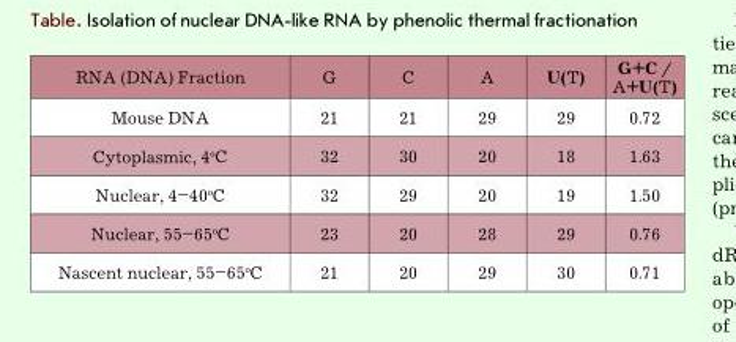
<table><thead><tr><td>RNA (DNA) Fraction</td><td>G</td><td>C</td><td>A</td><td>U(T)</td><td>G+C / A+U(T)</td></tr></thead><tbody><tr><td>Mouse DNA</td><td>21</td><td>21</td><td>29</td><td>29</td><td>0.72</td></tr><tr><td>Cytoplasmic, 4°C</td><td>32</td><td>30</td><td>20</td><td>18</td><td>1.63</td></tr><tr><td>Nuclear, 4–40°C</td><td>32</td><td>29</td><td>20</td><td>19</td><td>1.50</td></tr><tr><td>Nuclear, 55–65°C</td><td>23</td><td>20</td><td>28</td><td>29</td><td>0.76</td></tr><tr><td>Nascent nuclear, 55–65°C</td><td>21</td><td>20</td><td>29</td><td>30</td><td>0.71</td></tr></tbody></table>